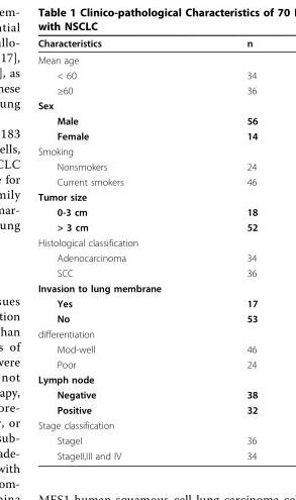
<table><thead><tr><td>Characteristics</td><td>n</td></tr></thead><tbody><tr><td colspan="2">Mean age</td></tr><tr><td>&lt; 60</td><td>34</td></tr><tr><td>≥60</td><td>36</td></tr><tr><td colspan="2">Sex</td></tr><tr><td>Male</td><td>56</td></tr><tr><td>Female</td><td>14</td></tr><tr><td colspan="2">Smoking</td></tr><tr><td>Nonsmokers</td><td>24</td></tr><tr><td>Current smokers</td><td>46</td></tr><tr><td colspan="2">Tumor size</td></tr><tr><td>0-3 cm</td><td>18</td></tr><tr><td>&gt; 3 cm</td><td>52</td></tr><tr><td colspan="2">Histological classification</td></tr><tr><td>Adenocarcinoma</td><td>34</td></tr><tr><td>SCC</td><td>36</td></tr><tr><td colspan="2">Invasion to lung membrane</td></tr><tr><td>Yes</td><td>17</td></tr><tr><td>No</td><td>53</td></tr><tr><td colspan="2">differentiation</td></tr><tr><td>Mod-well</td><td>46</td></tr><tr><td>Poor</td><td>24</td></tr><tr><td colspan="2">Lymph node</td></tr><tr><td>Negative</td><td>38</td></tr><tr><td>Positive</td><td>32</td></tr><tr><td colspan="2">Stage classification</td></tr><tr><td>StageI</td><td>36</td></tr><tr><td>StageII,III and IV</td><td>34</td></tr></tbody></table>